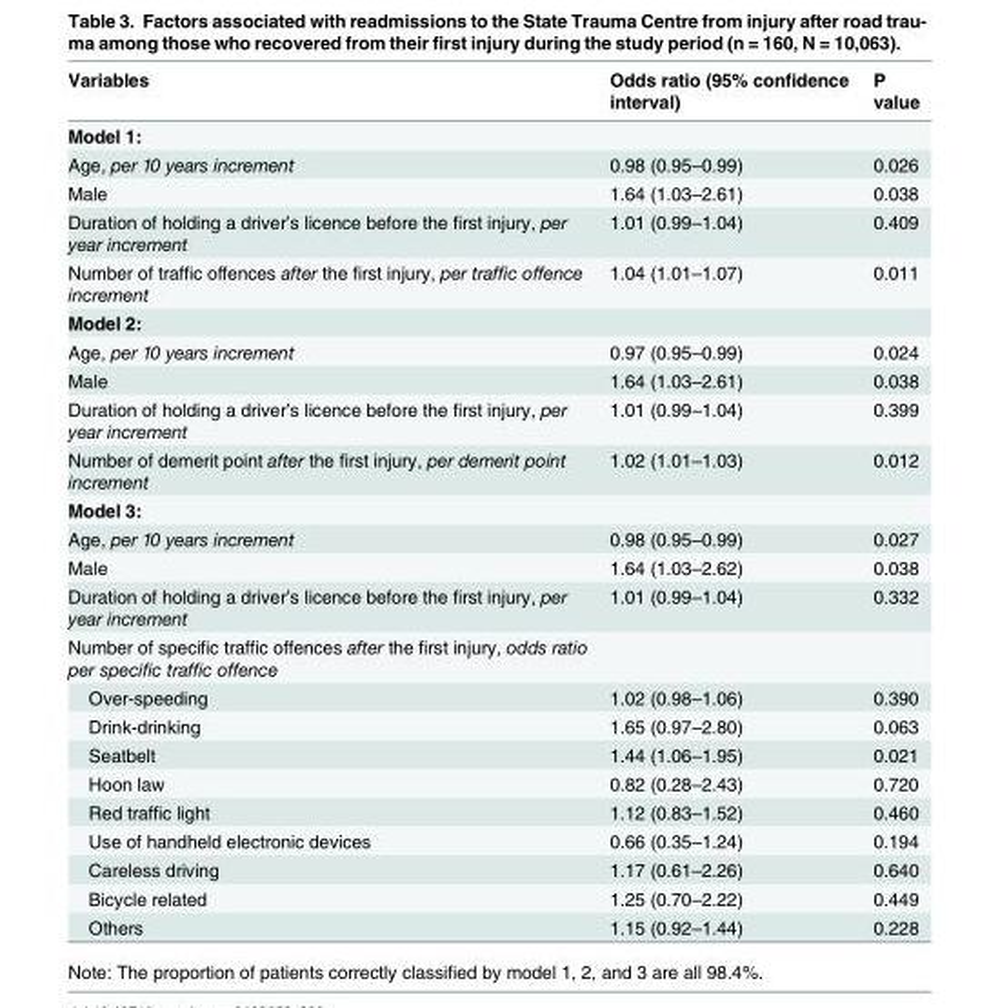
<table><thead><tr><td>Variables</td><td>Odds ratio (95% confidence interval)</td><td>P value</td></tr></thead><tbody><tr><td colspan="3">Model 1:</td></tr><tr><td>Age, per 10 years increment</td><td>0.98 (0.95–0.99)</td><td>0.026</td></tr><tr><td>Male</td><td>1.64 (1.03–2.61)</td><td>0.038</td></tr><tr><td>Duration of holding a driver’s licence before the first injury, per year increment</td><td>1.01 (0.99–1.04)</td><td>0.409</td></tr><tr><td>Number of traffic offences after the first injury, per traffic offence increment</td><td>1.04 (1.01–1.07)</td><td>0.011</td></tr><tr><td colspan="3">Model 2:</td></tr><tr><td>Age, per 10 years increment</td><td>0.97 (0.95–0.99)</td><td>0.024</td></tr><tr><td>Male</td><td>1.64 (1.03–2.61)</td><td>0.038</td></tr><tr><td>Duration of holding a driver’s licence before the first injury, per year increment</td><td>1.01 (0.99–1.04)</td><td>0.399</td></tr><tr><td>Number of demerit point after the first injury, per demerit point increment</td><td>1.02 (1.01–1.03)</td><td>0.012</td></tr><tr><td colspan="3">Model 3:</td></tr><tr><td>Age, per 10 years increment</td><td>0.98 (0.95–0.99)</td><td>0.027</td></tr><tr><td>Male</td><td>1.64 (1.03–2.62)</td><td>0.038</td></tr><tr><td>Duration of holding a driver’s licence before the first injury, per year increment</td><td>1.01 (0.99–1.04)</td><td>0.332</td></tr><tr><td colspan="3">Number of specific traffic offences after the first injury, odds ratio per specific traffic offence</td></tr><tr><td>Over-speeding</td><td>1.02 (0.98–1.06)</td><td>0.390</td></tr><tr><td>Drink-drinking</td><td>1.65 (0.97–2.80)</td><td>0.063</td></tr><tr><td>Seatbelt</td><td>1.44 (1.06–1.95)</td><td>0.021</td></tr><tr><td>Hoon law</td><td>0.82 (0.28–2.43)</td><td>0.720</td></tr><tr><td>Red traffic light</td><td>1.12 (0.83–1.52)</td><td>0.460</td></tr><tr><td>Use of handheld electronic devices</td><td>0.66 (0.35–1.24)</td><td>0.194</td></tr><tr><td>Careless driving</td><td>1.17 (0.61–2.26)</td><td>0.640</td></tr><tr><td>Bicycle related</td><td>1.25 (0.70–2.22)</td><td>0.449</td></tr><tr><td>Others</td><td>1.15 (0.92–1.44)</td><td>0.228</td></tr></tbody></table>